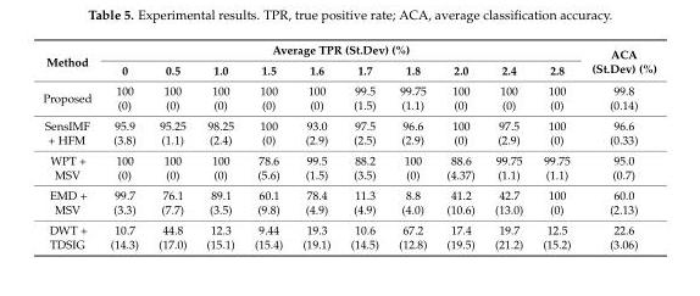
<table><thead><tr><td rowspan="2">Method</td><td colspan="10">Average TPR (St.Dev) (%)</td><td rowspan="2">ACA (St.Dev) (%)</td></tr><tr><td>0</td><td>0.5</td><td>1.0</td><td>1.5</td><td>1.6</td><td>1.7</td><td>1.8</td><td>2.0</td><td>2.4</td><td>2.8</td></tr></thead><tbody><tr><td>Proposed</td><td>100 (0)</td><td>100 (0)</td><td>100 (0)</td><td>100 (0)</td><td>100 (0)</td><td>99.5 (1.5)</td><td>99.75 (1.1)</td><td>100 (0)</td><td>100 (0)</td><td>100 (0)</td><td>99.8 (0.14)</td></tr><tr><td>SensIMF + HFM</td><td>95.9 (3.8)</td><td>95.25 (1.1)</td><td>98.25 (2.4)</td><td>100 (0)</td><td>93.0 (2.9)</td><td>97.5 (2.5)</td><td>96.6 (2.9)</td><td>100 (0)</td><td>97.5 (2.9)</td><td>100 (0)</td><td>96.6 (0.33)</td></tr><tr><td>WPT + MSV</td><td>100 (0)</td><td>100 (0)</td><td>100 (0)</td><td>78.6 (5.6)</td><td>99.5 (1.5)</td><td>88.2 (3.5)</td><td>100 (0)</td><td>88.6 (4.37)</td><td>99.75 (1.1)</td><td>99.75 (1.1)</td><td>95.0 (0.7)</td></tr><tr><td>EMD + MSV</td><td>99.7 (3.3)</td><td>76.1 (7.7)</td><td>89.1 (3.5)</td><td>60.1 (9.8)</td><td>78.4 (4.9)</td><td>11.3 (4.9)</td><td>8.8 (4.0)</td><td>41.2 (10.6)</td><td>42.7 (13.0)</td><td>100 (0)</td><td>60.0 (2.13)</td></tr><tr><td>DWT + TDSIG</td><td>10.7 (14.3)</td><td>44.8 (17.0)</td><td>12.3 (15.1)</td><td>9.44 (15.4)</td><td>19.3 (19.1)</td><td>10.6 (14.5)</td><td>67.2 (12.8)</td><td>17.4 (19.5)</td><td>19.7 (21.2)</td><td>12.5 (15.2)</td><td>22.6 (3.06)</td></tr></tbody></table>